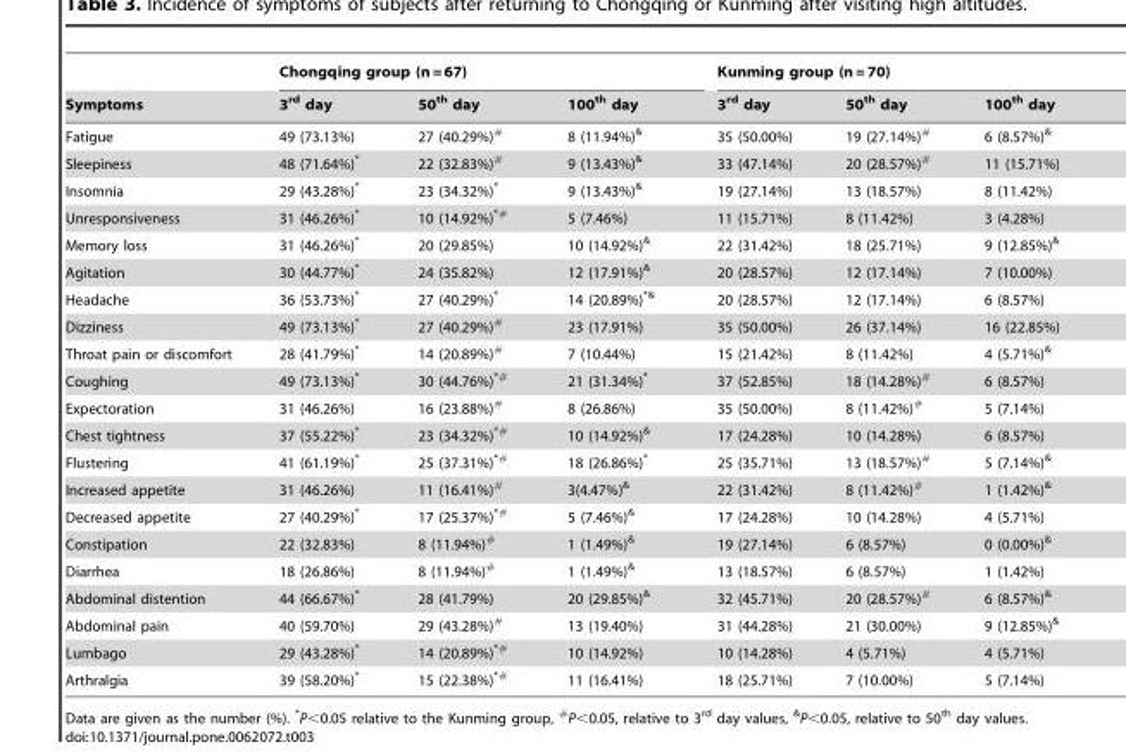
<table><thead><tr><td rowspan="2">Symptoms</td><td colspan="3">Chongqing group (n = 67)</td><td colspan="3">Kunming group (n = 70)</td></tr><tr><td>3<sup>rd</sup> day</td><td>50<sup>th</sup> day</td><td>100<sup>th</sup> day</td><td>3<sup>rd</sup> day</td><td>50<sup>th</sup> day</td><td>100<sup>th</sup> day</td></tr></thead><tbody><tr><td>Fatigue</td><td>49 (73.13%)</td><td>27 (40.29%)<sup>#</sup></td><td>8 (11.94%)<sup>&amp;</sup></td><td>35 (50.00%)</td><td>19 (27.14%)<sup>#</sup></td><td>6 (8.57%)<sup>&amp;</sup></td></tr><tr><td>Sleepiness</td><td>48 (71.64%)*</td><td>22 (32.83%)<sup>#</sup></td><td>9 (13.43%)<sup>&amp;</sup></td><td>33 (47.14%)</td><td>20 (28.57%)<sup>#</sup></td><td>11 (15.71%)</td></tr><tr><td>Insomnia</td><td>29 (43.28%)*</td><td>23 (34.32%)*</td><td>9 (13.43%)<sup>&amp;</sup></td><td>19 (27.14%)</td><td>13 (18.57%)</td><td>8 (11.42%)</td></tr><tr><td>Unresponsiveness</td><td>31 (46.26%)*</td><td>10 (14.92%)<sup>*#</sup></td><td>5 (7.46%)</td><td>11 (15.71%)</td><td>8 (11.42%)</td><td>3 (4.28%)</td></tr><tr><td>Memory loss</td><td>31 (46.26%)*</td><td>20 (29.85%)</td><td>10 (14.92%)<sup>&amp;</sup></td><td>22 (31.42%)</td><td>18 (25.71%)</td><td>9 (12.85%)<sup>&amp;</sup></td></tr><tr><td>Agitation</td><td>30 (44.77%)*</td><td>24 (35.82%)</td><td>12 (17.91%)<sup>&amp;</sup></td><td>20 (28.57%)</td><td>12 (17.14%)</td><td>7 (10.00%)</td></tr><tr><td>Headache</td><td>36 (53.73%)*</td><td>27 (40.29%)*</td><td>14 (20.89%)<sup>*&amp;</sup></td><td>20 (28.57%)</td><td>12 (17.14%)</td><td>6 (8.57%)</td></tr><tr><td>Dizziness</td><td>49 (73.13%)*</td><td>27 (40.29%)<sup>#</sup></td><td>23 (17.91%)</td><td>35 (50.00%)</td><td>26 (37.14%)</td><td>16 (22.85%)</td></tr><tr><td>Throat pain or discomfort</td><td>28 (41.79%)*</td><td>14 (20.89%)<sup>#</sup></td><td>7 (10.44%)</td><td>15 (21.42%)</td><td>8 (11.42%)</td><td>4 (5.71%)<sup>&amp;</sup></td></tr><tr><td>Coughing</td><td>49 (73.13%)*</td><td>30 (44.76%)<sup>*#</sup></td><td>21 (31.34%)*</td><td>37 (52.85%)</td><td>18 (14.28%)<sup>#</sup></td><td>6 (8.57%)</td></tr><tr><td>Expectoration</td><td>31 (46.26%)</td><td>16 (23.88%)<sup>#</sup></td><td>8 (26.86%)</td><td>35 (50.00%)</td><td>8 (11.42%)<sup>#</sup></td><td>5 (7.14%)</td></tr><tr><td>Chest tightness</td><td>37 (55.22%)*</td><td>23 (34.32%)<sup>*#</sup></td><td>10 (14.92%)<sup>&amp;</sup></td><td>17 (24.28%)</td><td>10 (14.28%)</td><td>6 (8.57%)</td></tr><tr><td>Flustering</td><td>41 (61.19%)*</td><td>25 (37.31%)<sup>*#</sup></td><td>18 (26.86%)*</td><td>25 (35.71%)</td><td>13 (18.57%)<sup>#</sup></td><td>5 (7.14%)<sup>&amp;</sup></td></tr><tr><td>Increased appetite</td><td>31 (46.26%)</td><td>11 (16.41%)<sup>#</sup></td><td>3(4.47%)<sup>&amp;</sup></td><td>22 (31.42%)</td><td>8 (11.42%)<sup>#</sup></td><td>1 (1.42%)<sup>&amp;</sup></td></tr><tr><td>Decreased appetite</td><td>27 (40.29%)*</td><td>17 (25.37%)<sup>*#</sup></td><td>5 (7.46%)<sup>&amp;</sup></td><td>17 (24.28%)</td><td>10 (14.28%)</td><td>4 (5.71%)</td></tr><tr><td>Constipation</td><td>22 (32.83%)</td><td>8 (11.94%)<sup>#</sup></td><td>1 (1.49%)<sup>&amp;</sup></td><td>19 (27.14%)</td><td>6 (8.57%)</td><td>0 (0.00%)<sup>&amp;</sup></td></tr><tr><td>Diarrhea</td><td>18 (26.86%)</td><td>8 (11.94%)<sup>#</sup></td><td>1 (1.49%)<sup>&amp;</sup></td><td>13 (18.57%)</td><td>6 (8.57%)</td><td>1 (1.42%)</td></tr><tr><td>Abdominal distention</td><td>44 (66.67%)*</td><td>28 (41.79%)</td><td>20 (29.85%)<sup>&amp;</sup></td><td>32 (45.71%)</td><td>20 (28.57%)<sup>#</sup></td><td>6 (8.57%)<sup>&amp;</sup></td></tr><tr><td>Abdominal pain</td><td>40 (59.70%)</td><td>29 (43.28%)<sup>#</sup></td><td>13 (19.40%)</td><td>31 (44.28%)</td><td>21 (30.00%)</td><td>9 (12.85%)<sup>&amp;</sup></td></tr><tr><td>Lumbago</td><td>29 (43.28%)*</td><td>14 (20.89%)<sup>*#</sup></td><td>10 (14.92%)</td><td>10 (14.28%)</td><td>4 (5.71%)</td><td>4 (5.71%)</td></tr><tr><td>Arthralgia</td><td>39 (58.20%)*</td><td>15 (22.38%)<sup>*#</sup></td><td>11 (16.41%)</td><td>18 (25.71%)</td><td>7 (10.00%)</td><td>5 (7.14%)</td></tr></tbody></table>